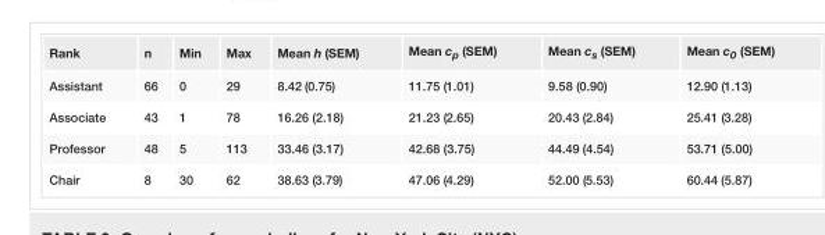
<table><tbody><tr><td>Rank</td><td>n</td><td>Min</td><td>Max</td><td>Mean h (SEM)</td><td>Mean c<sub>p</sub> (SEM)</td><td>Mean c<sub>s</sub> (SEM)</td><td>Mean c<sub>0</sub> (SEM)</td></tr><tr><td>Assistant</td><td>66</td><td>0</td><td>29</td><td>8.42 (0.75)</td><td>11.75 (1.01)</td><td>9.58 (0.90)</td><td>12.90 (1.13)</td></tr><tr><td>Associate</td><td>43</td><td>1</td><td>78</td><td>16.26 (2.18)</td><td>21.23 (2.65)</td><td>20.43 (2.84)</td><td>25.41 (3.28)</td></tr><tr><td>Professor</td><td>48</td><td>5</td><td>113</td><td>33.46 (3.17)</td><td>42.68 (3.75)</td><td>44.49 (4.54)</td><td>53.71 (5.00)</td></tr><tr><td>Chair</td><td>8</td><td>30</td><td>62</td><td>38.63 (3.79)</td><td>47.06 (4.29)</td><td>52.00 (5.53)</td><td>60.44 (5.87)</td></tr></tbody></table>